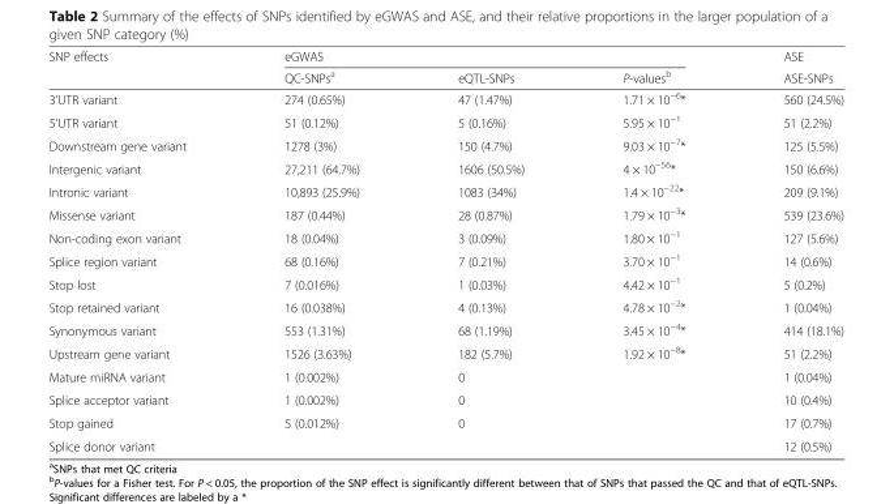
<table><thead><tr><td rowspan="2">SNP effects</td><td colspan="3">eGWAS</td><td rowspan="2">ASE ASE-SNPs</td></tr><tr><td>QC-SNPs<sup>a</sup></td><td>eQTL-SNPs</td><td>P-values<sup>b</sup></td></tr></thead><tbody><tr><td>3’UTR variant</td><td>274 (0.65%)</td><td>47 (1.47%)</td><td>1.71 × 10<sup>−6</sup>*</td><td>560 (24.5%)</td></tr><tr><td>5’UTR variant</td><td>51 (0.12%)</td><td>5 (0.16%)</td><td>5.95 × 10<sup>−1</sup></td><td>51 (2.2%)</td></tr><tr><td>Downstream gene variant</td><td>1278 (3%)</td><td>150 (4.7%)</td><td>9.03 × 10<sup>−7</sup>*</td><td>125 (5.5%)</td></tr><tr><td>Intergenic variant</td><td>27,211 (64.7%)</td><td>1606 (50.5%)</td><td>4 × 10<sup>−56</sup>*</td><td>150 (6.6%)</td></tr><tr><td>Intronic variant</td><td>10,893 (25.9%)</td><td>1083 (34%)</td><td>1.4 × 10<sup>−22</sup>*</td><td>209 (9.1%)</td></tr><tr><td>Missense variant</td><td>187 (0.44%)</td><td>28 (0.87%)</td><td>1.79 × 10<sup>−3</sup>*</td><td>539 (23.6%)</td></tr><tr><td>Non-coding exon variant</td><td>18 (0.04%)</td><td>3 (0.09%)</td><td>1.80 × 10<sup>−1</sup></td><td>127 (5.6%)</td></tr><tr><td>Splice region variant</td><td>68 (0.16%)</td><td>7 (0.21%)</td><td>3.70 × 10<sup>−1</sup></td><td>14 (0.6%)</td></tr><tr><td>Stop lost</td><td>7 (0.016%)</td><td>1 (0.03%)</td><td>4.42 × 10<sup>−1</sup></td><td>5 (0.2%)</td></tr><tr><td>Stop retained variant</td><td>16 (0.038%)</td><td>4 (0.13%)</td><td>4.78 × 10<sup>−2</sup>*</td><td>1 (0.04%)</td></tr><tr><td>Synonymous variant</td><td>553 (1.31%)</td><td>68 (1.19%)</td><td>3.45 × 10<sup>−4</sup>*</td><td>414 (18.1%)</td></tr><tr><td>Upstream gene variant</td><td>1526 (3.63%)</td><td>182 (5.7%)</td><td>1.92 × 10<sup>−8</sup>*</td><td>51 (2.2%)</td></tr><tr><td>Mature miRNA variant</td><td>1 (0.002%)</td><td>0</td><td></td><td>1 (0.04%)</td></tr><tr><td>Splice acceptor variant</td><td>1 (0.002%)</td><td>0</td><td></td><td>10 (0.4%)</td></tr><tr><td>Stop gained</td><td>5 (0.012%)</td><td>0</td><td></td><td>17 (0.7%)</td></tr><tr><td>Splice donor variant</td><td></td><td></td><td></td><td>12 (0.5%)</td></tr></tbody></table>